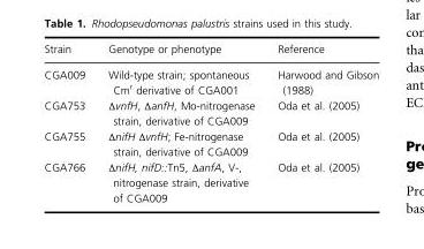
<table><thead><tr><td>Strain</td><td>Genotype or phenotype</td><td>Reference</td></tr></thead><tbody><tr><td>CGA009</td><td>Wild-type strain; spontaneous Cm<sup>r</sup> derivative of CGA001</td><td>Harwood and Gibson (1988)</td></tr><tr><td>CGA753</td><td>ΔvnfH, ΔanfH, Mo-nitrogenase strain, derivative of CGA009</td><td>Oda et al. (2005)</td></tr><tr><td>CGA755</td><td>ΔnifH ΔvnfH; Fe-nitrogenase strain, derivative of CGA009</td><td>Oda et al. (2005)</td></tr><tr><td>CGA766</td><td>ΔnifH, nifD::Tn5, ΔanfA, V-, nitrogenase strain, derivative of CGA009</td><td>Oda et al. (2005)</td></tr></tbody></table>